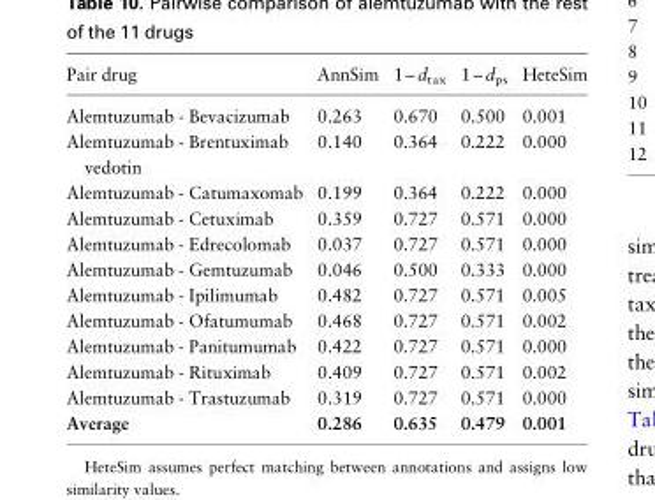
<table><thead><tr><td>Pair drug</td><td>AnnSim</td><td>1 – d<sub>tax</sub></td><td>1 – d<sub>ps</sub></td><td>HeteSim</td></tr></thead><tbody><tr><td>Alemtuzumab - Bevacizumab</td><td>0.263</td><td>0.670</td><td>0.500</td><td>0.001</td></tr><tr><td>Alemtuzumab - Brentuximab vedotin</td><td>0.140</td><td>0.364</td><td>0.222</td><td>0.000</td></tr><tr><td>Alemtuzumab - Catumaxomab</td><td>0.199</td><td>0.364</td><td>0.222</td><td>0.000</td></tr><tr><td>Alemtuzumab - Cetuximab</td><td>0.359</td><td>0.727</td><td>0.571</td><td>0.000</td></tr><tr><td>Alemtuzumab - Edrecolomab</td><td>0.037</td><td>0.727</td><td>0.571</td><td>0.000</td></tr><tr><td>Alemtuzumab - Gemtuzumab</td><td>0.046</td><td>0.500</td><td>0.333</td><td>0.000</td></tr><tr><td>Alemtuzumab - Ipilimumab</td><td>0.482</td><td>0.727</td><td>0.571</td><td>0.005</td></tr><tr><td>Alemtuzumab - Ofatumumab</td><td>0.468</td><td>0.727</td><td>0.571</td><td>0.002</td></tr><tr><td>Alemtuzumab - Panitumumab</td><td>0.422</td><td>0.727</td><td>0.571</td><td>0.000</td></tr><tr><td>Alemtuzumab - Rituximab</td><td>0.409</td><td>0.727</td><td>0.571</td><td>0.002</td></tr><tr><td>Alemtuzumab - Trastuzumab</td><td>0.319</td><td>0.727</td><td>0.571</td><td>0.000</td></tr><tr><td>Average</td><td>0.286</td><td>0.635</td><td>0.479</td><td>0.001</td></tr></tbody></table>